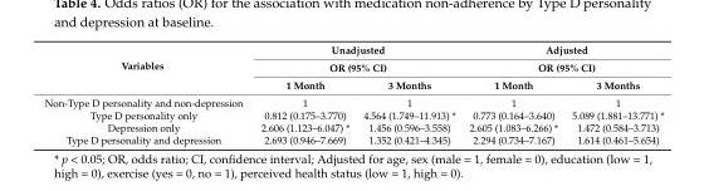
<table><thead><tr><td rowspan="3">Variables</td><td rowspan="2" colspan="2">Unadjusted OR (95% CI)</td><td rowspan="2" colspan="2">Adjusted OR (95% CI)</td></tr><tr></tr><tr><td>1 Month</td><td>3 Months</td><td>1 Month</td><td>3 Months</td></tr></thead><tbody><tr><td>Non-Type D personality and non-depression</td><td>1</td><td>1</td><td>1</td><td>1</td></tr><tr><td>Type D personality only</td><td>0.812 (0.175–3.770)</td><td>4.564 (1.749–11.913) *</td><td>0.773 (0.164–3.640)</td><td>5.089 (1.881–13.771) *</td></tr><tr><td>Depression only</td><td>2.606 (1.123–6.047) *</td><td>1.456 (0.596–3.558)</td><td>2.605 (1.083–6.266) *</td><td>1.472 (0.584–3.713)</td></tr><tr><td>Type D personality and depression</td><td>2.693 (0.946–7.669)</td><td>1.352 (0.421–4.345)</td><td>2.294 (0.734–7.167)</td><td>1.614 (0.461–5.654)</td></tr></tbody></table>